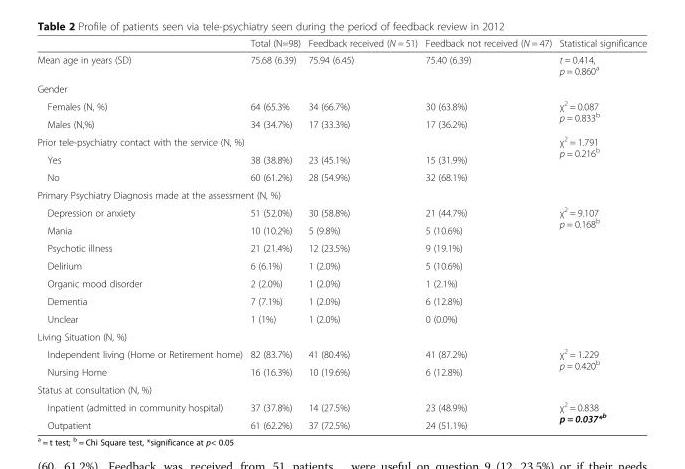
<table><thead><tr><td></td><td>Total (N=98)</td><td>Feedback received (N = 51)</td><td>Feedback not received (N = 47)</td><td>Statistical significance</td></tr></thead><tbody><tr><td>Mean age in years (SD)</td><td>75.68 (6.39)</td><td>75.94 (6.45)</td><td>75.40 (6.39)</td><td>t = 0.414, p = 0.860<sup>a</sup></td></tr><tr><td colspan="5">Gender</td></tr><tr><td>Females (N, %)</td><td>64 (65.3%</td><td>34 (66.7%)</td><td>30 (63.8%)</td><td rowspan="2">χ<sup>2</sup> = 0.087 p = 0.833<sup>b</sup></td></tr><tr><td>Males (N,%)</td><td>34 (34.7%)</td><td>17 (33.3%)</td><td>17 (36.2%)</td></tr><tr><td colspan="4">Prior tele-psychiatry contact with the service (N, %)</td><td rowspan="3">χ<sup>2</sup> = 1.791 p = 0.216<sup>b</sup></td></tr><tr><td>Yes</td><td>38 (38.8%)</td><td>23 (45.1%)</td><td>15 (31.9%)</td></tr><tr><td>No</td><td>60 (61.2%)</td><td>28 (54.9%)</td><td>32 (68.1%)</td></tr><tr><td colspan="5">Primary Psychiatry Diagnosis made at the assessment (N, %)</td></tr><tr><td>Depression or anxiety</td><td>51 (52.0%)</td><td>30 (58.8%)</td><td>21 (44.7%)</td><td rowspan="7">χ<sup>2</sup> = 9.107 p = 0.168<sup>b</sup></td></tr><tr><td>Mania</td><td>10 (10.2%)</td><td>5 (9.8%)</td><td>5 (10.6%)</td></tr><tr><td>Psychotic illness</td><td>21 (21.4%)</td><td>12 (23.5%)</td><td>9 (19.1%)</td></tr><tr><td>Delirium</td><td>6 (6.1%)</td><td>1 (2.0%)</td><td>5 (10.6%)</td></tr><tr><td>Organic mood disorder</td><td>2 (2.0%)</td><td>1 (2.0%)</td><td>1 (2.1%)</td></tr><tr><td>Dementia</td><td>7 (7.1%)</td><td>1 (2.0%)</td><td>6 (12.8%)</td></tr><tr><td>Unclear</td><td>1 (1%)</td><td>1 (2.0%)</td><td>0 (0.0%)</td></tr><tr><td colspan="5">Living Situation (N, %)</td></tr><tr><td>Independent living (Home or Retirement home)</td><td>82 (83.7%)</td><td>41 (80.4%)</td><td>41 (87.2%)</td><td rowspan="2">χ<sup>2</sup> = 1.229 p = 0.420<sup>b</sup></td></tr><tr><td>Nursing Home</td><td>16 (16.3%)</td><td>10 (19.6%)</td><td>6 (12.8%)</td></tr><tr><td colspan="5">Status at consultation (N, %)</td></tr><tr><td>Inpatient (admitted in community hospital)</td><td>37 (37.8%)</td><td>14 (27.5%)</td><td>23 (48.9%)</td><td rowspan="2">χ<sup>2</sup> = 0.838 p = 0.037*<sup>b</sup></td></tr><tr><td>Outpatient</td><td>61 (62.2%)</td><td>37 (72.5%)</td><td>24 (51.1%)</td></tr></tbody></table>